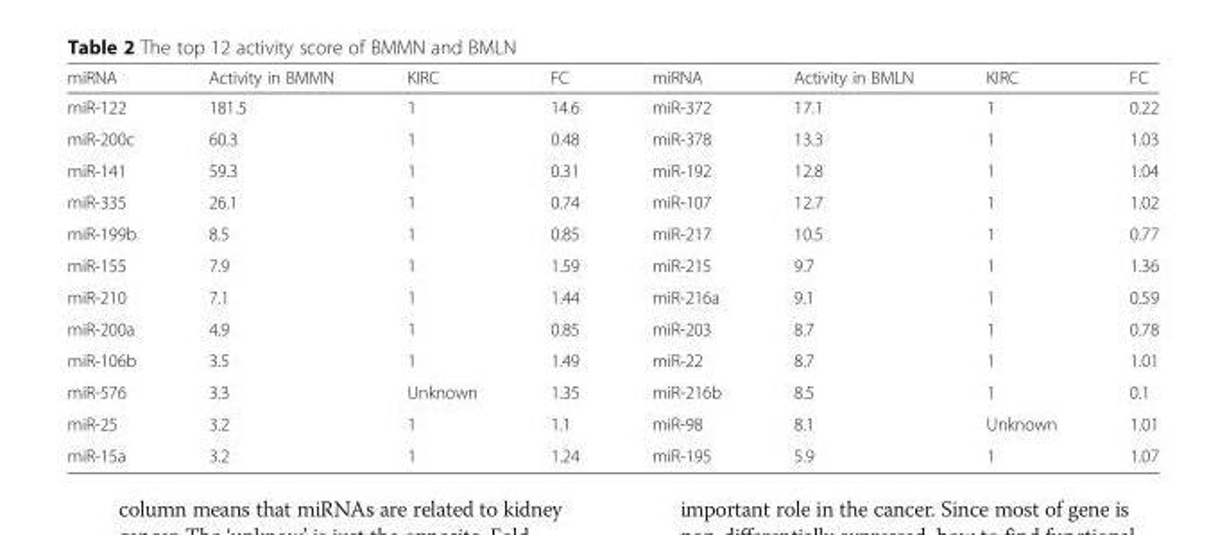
<table><thead><tr><td>miRNA</td><td>Activity in BMMN</td><td>KIRC</td><td>FC</td><td>miRNA</td><td>Activity in BMLN</td><td>KIRC</td><td>FC</td></tr></thead><tbody><tr><td>miR-122</td><td>181.5</td><td>1</td><td>14.6</td><td>miR-372</td><td>17.1</td><td>1</td><td>0.22</td></tr><tr><td>miR-200c</td><td>60.3</td><td>1</td><td>0.48</td><td>miR-378</td><td>13.3</td><td>1</td><td>1.03</td></tr><tr><td>miR-141</td><td>59.3</td><td>1</td><td>0.31</td><td>miR-192</td><td>12.8</td><td>1</td><td>1.04</td></tr><tr><td>miR-335</td><td>26.1</td><td>1</td><td>0.74</td><td>miR-107</td><td>12.7</td><td>1</td><td>1.02</td></tr><tr><td>miR-199b</td><td>8.5</td><td>1</td><td>0.85</td><td>miR-217</td><td>10.5</td><td>1</td><td>0.77</td></tr><tr><td>miR-155</td><td>7.9</td><td>1</td><td>1.59</td><td>miR-215</td><td>9.7</td><td>1</td><td>1.36</td></tr><tr><td>miR-210</td><td>7.1</td><td>1</td><td>1.44</td><td>miR-216a</td><td>9.1</td><td>1</td><td>0.59</td></tr><tr><td>miR-200a</td><td>4.9</td><td>1</td><td>0.85</td><td>miR-203</td><td>8.7</td><td>1</td><td>0.78</td></tr><tr><td>miR-106b</td><td>3.5</td><td>1</td><td>1.49</td><td>miR-22</td><td>8.7</td><td>1</td><td>1.01</td></tr><tr><td>miR-576</td><td>3.3</td><td>Unknown</td><td>1.35</td><td>miR-216b</td><td>8.5</td><td>1</td><td>0.1</td></tr><tr><td>miR-25</td><td>3.2</td><td>1</td><td>1.1</td><td>miR-98</td><td>8.1</td><td>Unknown</td><td>1.01</td></tr><tr><td>miR-15a</td><td>3.2</td><td>1</td><td>1.24</td><td>miR-195</td><td>5.9</td><td>1</td><td>1.07</td></tr></tbody></table>